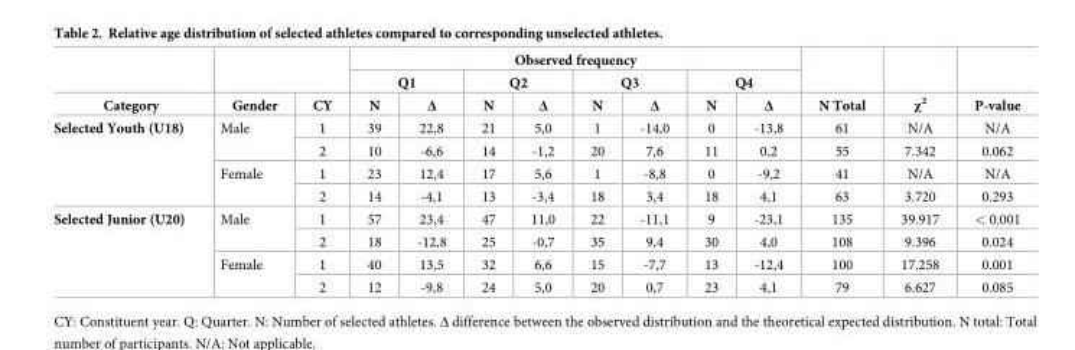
<table><thead><tr><td rowspan="3">Category</td><td rowspan="3">Gender</td><td rowspan="3">CY</td><td colspan="8">Observed frequency</td><td rowspan="3">N Total</td><td rowspan="3">χ<sup>2</sup></td><td rowspan="3">P-value</td></tr><tr><td colspan="2">Q1</td><td colspan="2">Q2</td><td colspan="2">Q3</td><td colspan="2">Q4</td></tr><tr><td>N</td><td>Δ</td><td>N</td><td>Δ</td><td>N</td><td>Δ</td><td>N</td><td>Δ</td></tr></thead><tbody><tr><td rowspan="4">Selected Youth (U18)</td><td rowspan="2">Male</td><td>1</td><td>39</td><td>22,8</td><td>21</td><td>5,0</td><td>1</td><td>-14,0</td><td>0</td><td>-13,8</td><td>61</td><td>N/A</td><td>N/A</td></tr><tr><td>2</td><td>10</td><td>-6,6</td><td>14</td><td>-1,2</td><td>20</td><td>7,6</td><td>11</td><td>0,2</td><td>55</td><td>7.342</td><td>0.062</td></tr><tr><td rowspan="2">Female</td><td>1</td><td>23</td><td>12,4</td><td>17</td><td>5,6</td><td>1</td><td>-8,8</td><td>0</td><td>-9,2</td><td>41</td><td>N/A</td><td>N/A</td></tr><tr><td>2</td><td>14</td><td>-4,1</td><td>13</td><td>-3,4</td><td>18</td><td>3,4</td><td>18</td><td>4,1</td><td>63</td><td>3.720</td><td>0.293</td></tr><tr><td rowspan="4">Selected Junior (U20)</td><td rowspan="2">Male</td><td>1</td><td>57</td><td>23,4</td><td>47</td><td>11,0</td><td>22</td><td>-11,1</td><td>9</td><td>-23,1</td><td>135</td><td>39.917</td><td>&lt; 0.001</td></tr><tr><td>2</td><td>18</td><td>-12,8</td><td>25</td><td>-0,7</td><td>35</td><td>9,4</td><td>30</td><td>4,0</td><td>108</td><td>9.396</td><td>0.024</td></tr><tr><td rowspan="2">Female</td><td>1</td><td>40</td><td>13,5</td><td>32</td><td>6,6</td><td>15</td><td>-7,7</td><td>13</td><td>-12,4</td><td>100</td><td>17.258</td><td>0.001</td></tr><tr><td>2</td><td>12</td><td>-9,8</td><td>24</td><td>5,0</td><td>20</td><td>0,7</td><td>23</td><td>4,1</td><td>79</td><td>6.627</td><td>0.085</td></tr></tbody></table>